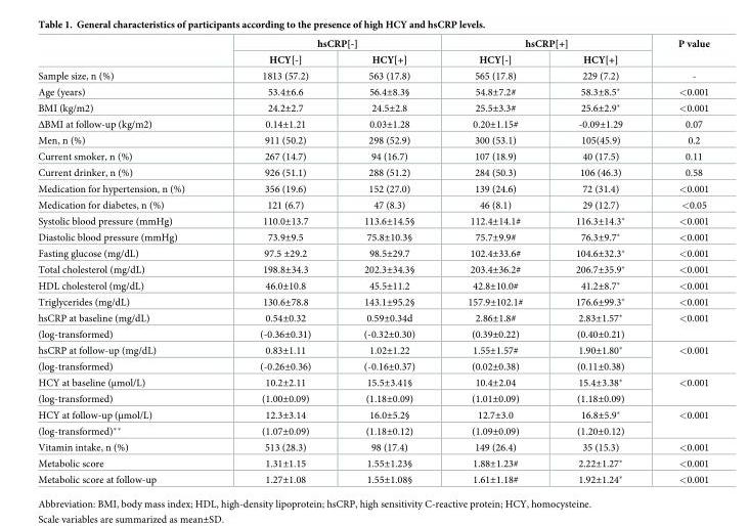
<table><thead><tr><td rowspan="2"></td><td colspan="2">hsCRP[-]</td><td colspan="2">hsCRP[+]</td><td rowspan="2">P value</td></tr><tr><td>HCY[-]</td><td>HCY[+]</td><td>HCY[-]</td><td>HCY[+]</td></tr></thead><tbody><tr><td>Sample size, n (%)</td><td>1813 (57.2)</td><td>563 (17.8)</td><td>565 (17.8)</td><td>229 (7.2)</td><td>-</td></tr><tr><td>Age (years)</td><td>53.4±6.6</td><td>56.4±8.3§</td><td>54.8±7.2#</td><td>58.3±8.5*</td><td>&lt;0.001</td></tr><tr><td>BMI (kg/m2)</td><td>24.2±2.7</td><td>24.5±2.8</td><td>25.5±3.3#</td><td>25.6±2.9*</td><td>&lt;0.001</td></tr><tr><td>ΔBMI at follow-up (kg/m2)</td><td>0.14±1.21</td><td>0.03±1.28</td><td>0.20±1.15#</td><td>-0.09±1.29</td><td>0.07</td></tr><tr><td>Men, n (%)</td><td>911 (50.2)</td><td>298 (52.9)</td><td>300 (53.1)</td><td>105(45.9)</td><td>0.2</td></tr><tr><td>Current smoker, n (%)</td><td>267 (14.7)</td><td>94 (16.7)</td><td>107 (18.9)</td><td>40 (17.5)</td><td>0.11</td></tr><tr><td>Current drinker, n (%)</td><td>926 (51.1)</td><td>288 (51.2)</td><td>284 (50.3)</td><td>106 (46.3)</td><td>0.58</td></tr><tr><td>Medication for hypertension, n (%)</td><td>356 (19.6)</td><td>152 (27.0)</td><td>139 (24.6)</td><td>72 (31.4)</td><td>&lt;0.001</td></tr><tr><td>Medication for diabetes, n (%)</td><td>121 (6.7)</td><td>47 (8.3)</td><td>46 (8.1)</td><td>29 (12.7)</td><td>&lt;0.05</td></tr><tr><td>Systolic blood pressure (mmHg)</td><td>110.0±13.7</td><td>113.6±14.5§</td><td>112.4±14.1#</td><td>116.3±14.3*</td><td>&lt;0.001</td></tr><tr><td>Diastolic blood pressure (mmHg)</td><td>73.9±9.5</td><td>75.8±10.3§</td><td>75.7±9.9#</td><td>76.3±9.7*</td><td>&lt;0.001</td></tr><tr><td>Fasting glucose (mg/dL)</td><td>97.5 ±29.2</td><td>98.5±29.7</td><td>102.4±33.6#</td><td>104.6±32.3*</td><td>&lt;0.001</td></tr><tr><td>Total cholesterol (mg/dL)</td><td>198.8±34.3</td><td>202.3±34.3§</td><td>203.4±36.2#</td><td>206.7±35.9*</td><td>&lt;0.001</td></tr><tr><td>HDL cholesterol (mg/dL)</td><td>46.0±10.8</td><td>45.5±11.2</td><td>42.8±10.0#</td><td>41.2±8.7*</td><td>&lt;0.001</td></tr><tr><td>Triglycerides (mg/dL)</td><td>130.6±78.8</td><td>143.1±95.2§</td><td>157.9±102.1#</td><td>176.6±99.3*</td><td>&lt;0.001</td></tr><tr><td>hsCRP at baseline (mg/dL)</td><td>0.54±0.32</td><td>0.59±0.34d</td><td>2.86±1.8#</td><td>2.83±1.57*</td><td rowspan="2">&lt;0.001</td></tr><tr><td>(log-transformed)</td><td>(-0.36±0.31)</td><td>(-0.32±0.30)</td><td>(0.39±0.22)</td><td>(0.40±0.21)</td></tr><tr><td>hsCRP at follow-up (mg/dL)</td><td>0.83±1.11</td><td>1.02±1.22</td><td>1.55±1.57#</td><td>1.90±1.80*</td><td rowspan="2">&lt;0.001</td></tr><tr><td>(log-transformed)</td><td>(-0.26±0.36)</td><td>(-0.16±0.37)</td><td>(0.02±0.38)</td><td>(0.11±0.38)</td></tr><tr><td>HCY at baseline (μmol/L)</td><td>10.2±2.11</td><td>15.5±3.41§</td><td>10.4±2.04</td><td>15.4±3.38*</td><td rowspan="2">&lt;0.001</td></tr><tr><td>(log-transformed)</td><td>(1.00±0.09)</td><td>(1.18±0.09)</td><td>(1.01±0.09)</td><td>(1.18±0.09)</td></tr><tr><td>HCY at follow-up (μmol/L)</td><td>12.3±3.14</td><td>16.0±5.2§</td><td>12.7±3.0</td><td>16.8±5.9*</td><td rowspan="2">&lt;0.001</td></tr><tr><td>(log-transformed)**</td><td>(1.07±0.09)</td><td>(1.18±0.12)</td><td>(1.09±0.09)</td><td>(1.20±0.12)</td></tr><tr><td>Vitamin intake, n (%)</td><td>513 (28.3)</td><td>98 (17.4)</td><td>149 (26.4)</td><td>35 (15.3)</td><td>&lt;0.001</td></tr><tr><td>Metabolic score</td><td>1.31±1.15</td><td>1.55±1.23§</td><td>1.88±1.23#</td><td>2.22±1.27*</td><td>&lt;0.001</td></tr><tr><td>Metabolic score at follow-up</td><td>1.27±1.08</td><td>1.55±1.08§</td><td>1.61±1.18#</td><td>1.92±1.24*</td><td>&lt;0.001</td></tr></tbody></table>